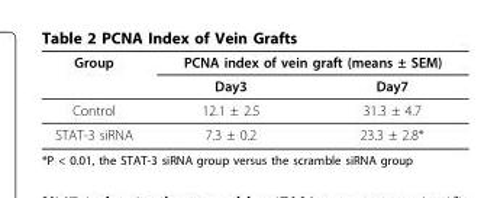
<table><thead><tr><td rowspan="2">Group</td><td colspan="2">PCNA index of vein graft (means ± SEM)</td></tr><tr><td>Day3</td><td>Day7</td></tr></thead><tbody><tr><td>Control</td><td>12.1 ± 2.5</td><td>31.3 ± 4.7</td></tr><tr><td>STAT-3 siRNA</td><td>7.3 ± 0.2</td><td>23.3 ± 2.8*</td></tr></tbody></table>